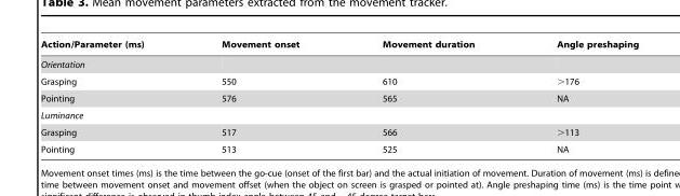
<table><thead><tr><td>Action/Parameter (ms)</td><td>Movement onset</td><td>Movement duration</td><td>Angle preshaping</td></tr></thead><tbody><tr><td colspan="4">Orientation</td></tr><tr><td>Grasping</td><td>550</td><td>610</td><td>&gt;176</td></tr><tr><td>Pointing</td><td>576</td><td>565</td><td>NA</td></tr><tr><td colspan="4">Luminance</td></tr><tr><td>Grasping</td><td>517</td><td>566</td><td>&gt;113</td></tr><tr><td>Pointing</td><td>513</td><td>525</td><td>NA</td></tr></tbody></table>